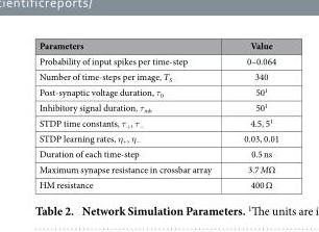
<table><thead><tr><td>Parameters</td><td>Value</td></tr></thead><tbody><tr><td>Probability of input spikes per time-step</td><td>0–0.064</td></tr><tr><td>Number of time-steps per image, T<sub>S</sub></td><td>340</td></tr><tr><td>Post-synaptic voltage duration, τ<sub>0</sub></td><td>50<sup>1</sup></td></tr><tr><td>Inhibitory signal duration, τ<sub>inh</sub></td><td>50<sup>1</sup></td></tr><tr><td>STDP time constants, τ<sub>+</sub>, τ<sub>−</sub></td><td>4.5, 5<sup>1</sup></td></tr><tr><td>STDP learning rates, η<sub>+</sub>, η<sub>−</sub></td><td>0.03, 0.01</td></tr><tr><td>Duration of each time-step</td><td>0.5 ns</td></tr><tr><td>Maximum synapse resistance in crossbar array</td><td>3.7 MΩ</td></tr><tr><td>HM resistance</td><td>400 Ω</td></tr></tbody></table>